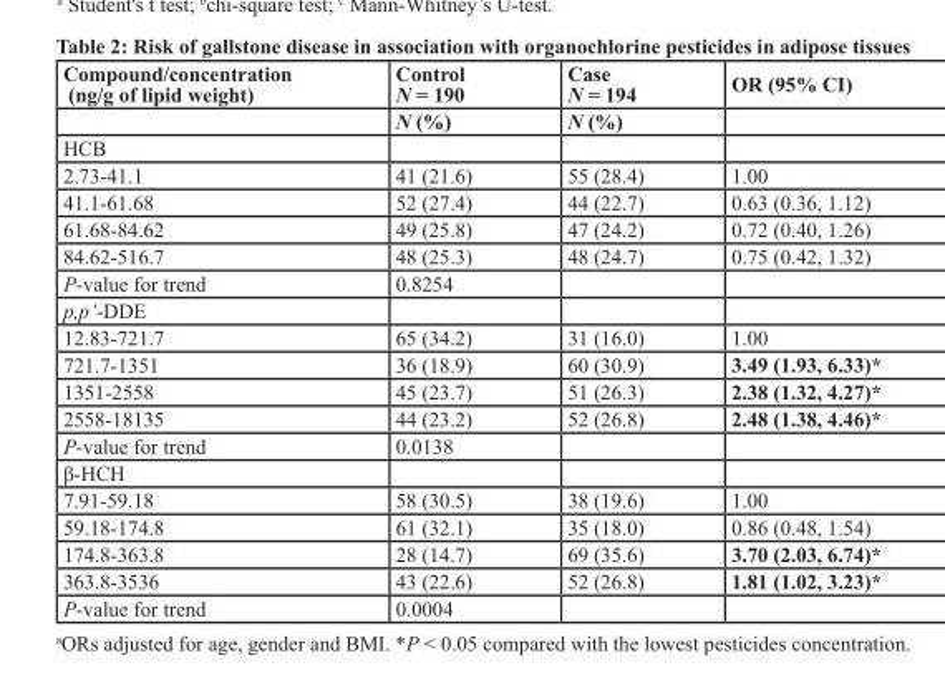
<table><thead><tr><td rowspan="2">compound/concentration (ng/g of lipid weight)</td><td rowspan="2">control N = 190 N (%)</td><td rowspan="2">case N = 194 N (%)</td><td rowspan="2">or (95% cI)</td></tr><tr></tr></thead><tbody><tr><td colspan="4">HCB</td></tr><tr><td>2.73-41.1</td><td>41 (21.6)</td><td>55 (28.4)</td><td>1.00</td></tr><tr><td>41.1-61.68</td><td>52 (27.4)</td><td>44 (22.7)</td><td>0.63 (0.36, 1.12)</td></tr><tr><td>61.68-84.62</td><td>49 (25.8)</td><td>47 (24.2)</td><td>0.72 (0.40, 1.26)</td></tr><tr><td>84.62-516.7</td><td>48 (25.3)</td><td>48 (24.7)</td><td>0.75 (0.42, 1.32)</td></tr><tr><td>P-value for trend</td><td>0.8254</td><td></td><td></td></tr><tr><td colspan="4">p,p’-DDE</td></tr><tr><td>12.83-721.7</td><td>65 (34.2)</td><td>31 (16.0)</td><td>1.00</td></tr><tr><td>721.7-1351</td><td>36 (18.9)</td><td>60 (30.9)</td><td>3.49 (1.93, 6.33)*</td></tr><tr><td>1351-2558</td><td>45 (23.7)</td><td>51 (26.3)</td><td>2.38 (1.32, 4.27)*</td></tr><tr><td>2558-18135</td><td>44 (23.2)</td><td>52 (26.8)</td><td>2.48 (1.38, 4.46)*</td></tr><tr><td>P-value for trend</td><td>0.0138</td><td></td><td></td></tr><tr><td colspan="4">β-HCH</td></tr><tr><td>7.91-59.18</td><td>58 (30.5)</td><td>38 (19.6)</td><td>1.00</td></tr><tr><td>59.18-174.8</td><td>61 (32.1)</td><td>35 (18.0)</td><td>0.86 (0.48, 1.54)</td></tr><tr><td>174.8-363.8</td><td>28 (14.7)</td><td>69 (35.6)</td><td>3.70 (2.03, 6.74)*</td></tr><tr><td>363.8-3536</td><td>43 (22.6)</td><td>52 (26.8)</td><td>1.81 (1.02, 3.23)*</td></tr><tr><td>P-value for trend</td><td>0.0004</td><td></td><td></td></tr></tbody></table>